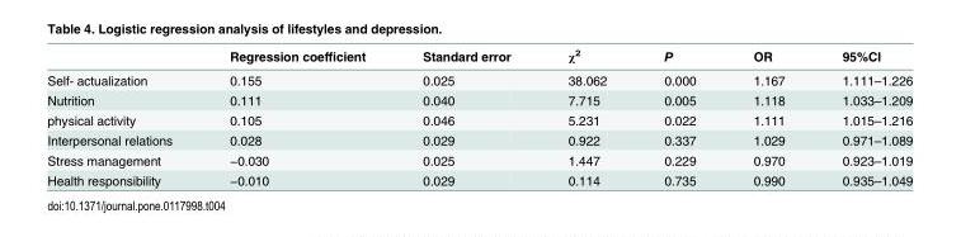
<table><thead><tr><td></td><td>Regression coefficient</td><td>Standard error</td><td>χ<sup>2</sup></td><td>P</td><td>OR</td><td>95%CI</td></tr></thead><tbody><tr><td>Self- actualization</td><td>0.155</td><td>0.025</td><td>38.062</td><td>0.000</td><td>1.167</td><td>1.111–1.226</td></tr><tr><td>Nutrition</td><td>0.111</td><td>0.040</td><td>7.715</td><td>0.005</td><td>1.118</td><td>1.033–1.209</td></tr><tr><td>physical activity</td><td>0.105</td><td>0.046</td><td>5.231</td><td>0.022</td><td>1.111</td><td>1.015–1.216</td></tr><tr><td>Interpersonal relations</td><td>0.028</td><td>0.029</td><td>0.922</td><td>0.337</td><td>1.029</td><td>0.971–1.089</td></tr><tr><td>Stress management</td><td>−0.030</td><td>0.025</td><td>1.447</td><td>0.229</td><td>0.970</td><td>0.923–1.019</td></tr><tr><td>Health responsibility</td><td>−0.010</td><td>0.029</td><td>0.114</td><td>0.735</td><td>0.990</td><td>0.935–1.049</td></tr></tbody></table>